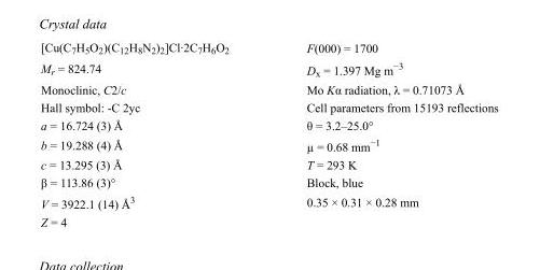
<table><tbody><tr><td>[Cu(C<sub>7</sub>H<sub>5</sub>O<sub>2</sub>)(C<sub>12</sub>H<sub>8</sub>N<sub>2</sub>)<sub>2</sub>]Cl·2C<sub>7</sub>H<sub>6</sub>O<sub>2</sub></td><td>F(000) = 1700</td></tr><tr><td>M<sub>r</sub> = 824.74</td><td>D<sub>x</sub> = 1.397 Mg m<sup>−3</sup></td></tr><tr><td>Monoclinic, C2/c</td><td>Mo Kα radiation, λ = 0.71073 Å</td></tr><tr><td>Hall symbol: -C 2yc</td><td>Cell parameters from 15193 reflections</td></tr><tr><td>a = 16.724 (3) Å</td><td>θ = 3.2–25.0°</td></tr><tr><td>b = 19.288 (4) Å</td><td>µ = 0.68 mm<sup>−1</sup></td></tr><tr><td>c = 13.295 (3) Å</td><td>T = 293 K</td></tr><tr><td>β = 113.86 (3)°</td><td>Block, blue</td></tr><tr><td>V = 3922.1 (14) Å<sup>3</sup></td><td>0.35 × 0.31 × 0.28 mm</td></tr><tr><td>Z = 4</td><td></td></tr></tbody></table>